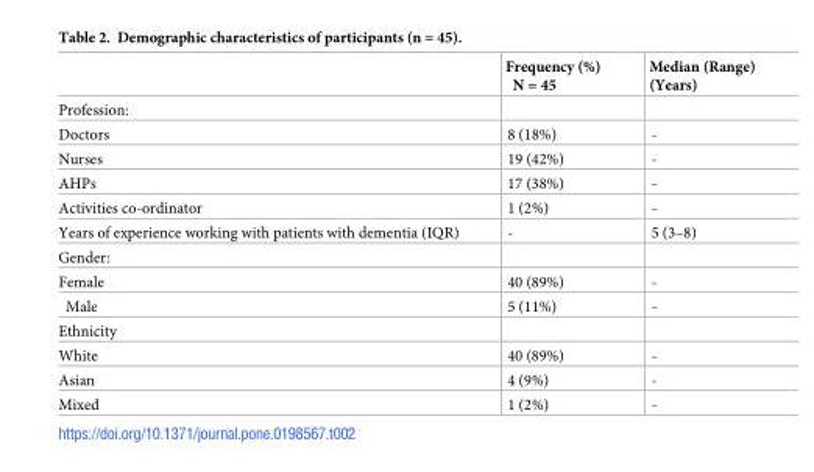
<table><thead><tr><td></td><td>Frequency (%) N = 45</td><td>Median (Range) (Years)</td></tr></thead><tbody><tr><td colspan="3">Profession:</td></tr><tr><td>Doctors</td><td>8 (18%)</td><td>-</td></tr><tr><td>Nurses</td><td>19 (42%)</td><td>-</td></tr><tr><td>AHPs</td><td>17 (38%)</td><td>-</td></tr><tr><td>Activities co-ordinator</td><td>1 (2%)</td><td>-</td></tr><tr><td>Years of experience working with patients with dementia (IQR)</td><td>-</td><td>5 (3–8)</td></tr><tr><td colspan="3">Gender:</td></tr><tr><td>Female</td><td>40 (89%)</td><td>-</td></tr><tr><td>Male</td><td>5 (11%)</td><td>-</td></tr><tr><td colspan="3">Ethnicity</td></tr><tr><td>White</td><td>40 (89%)</td><td>-</td></tr><tr><td>Asian</td><td>4 (9%)</td><td>-</td></tr><tr><td>Mixed</td><td>1 (2%)</td><td>-</td></tr></tbody></table>